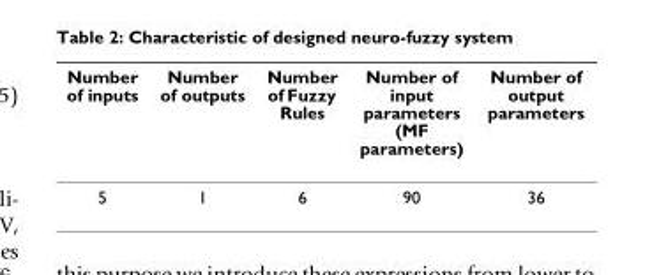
<table><thead><tr><td>Number of inputs</td><td>Number of outputs</td><td>Number of Fuzzy Rules</td><td>Number of input parameters (MF parameters)</td><td>Number of output parameters</td></tr></thead><tbody><tr><td>5</td><td>1</td><td>6</td><td>90</td><td>36</td></tr></tbody></table>